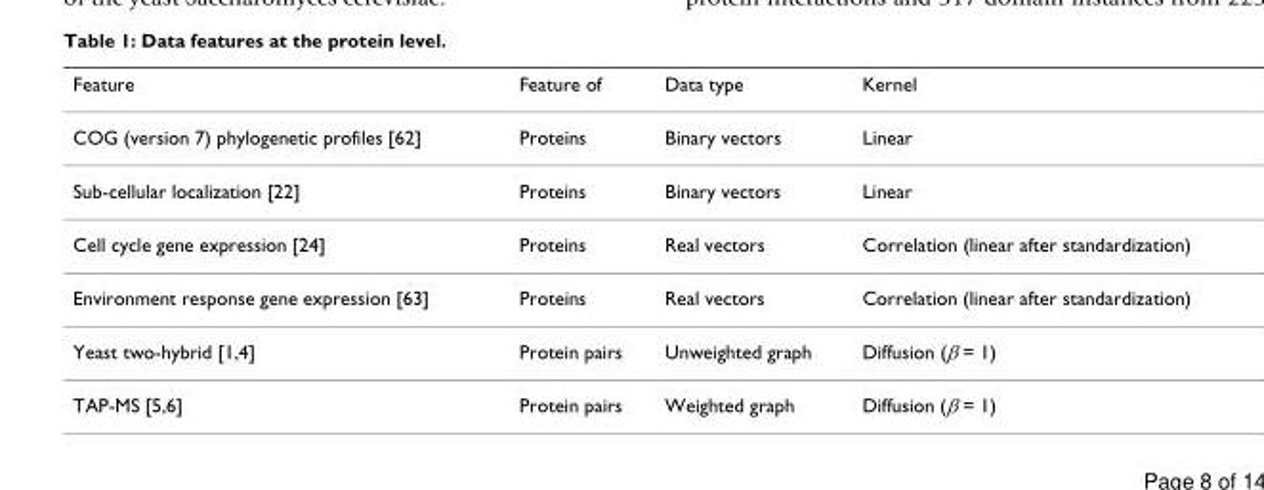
<table><thead><tr><td>Feature</td><td>Feature of</td><td>Data type</td><td>Kernel</td></tr></thead><tbody><tr><td>COG (version 7) phylogenetic profiles [62]</td><td>Proteins</td><td>Binary vectors</td><td>Linear</td></tr><tr><td>Sub-cellular localization [22]</td><td>Proteins</td><td>Binary vectors</td><td>Linear</td></tr><tr><td>Cell cycle gene expression [24]</td><td>Proteins</td><td>Real vectors</td><td>Correlation (linear after standardization)</td></tr><tr><td>Environment response gene expression [63]</td><td>Proteins</td><td>Real vectors</td><td>Correlation (linear after standardization)</td></tr><tr><td>Yeast two-hybrid [1,4]</td><td>Protein pairs</td><td>Unweighted graph</td><td>Diffusion (β = 1)</td></tr><tr><td>TAP-MS [5,6]</td><td>Protein pairs</td><td>Weighted graph</td><td>Diffusion (β = 1)</td></tr></tbody></table>